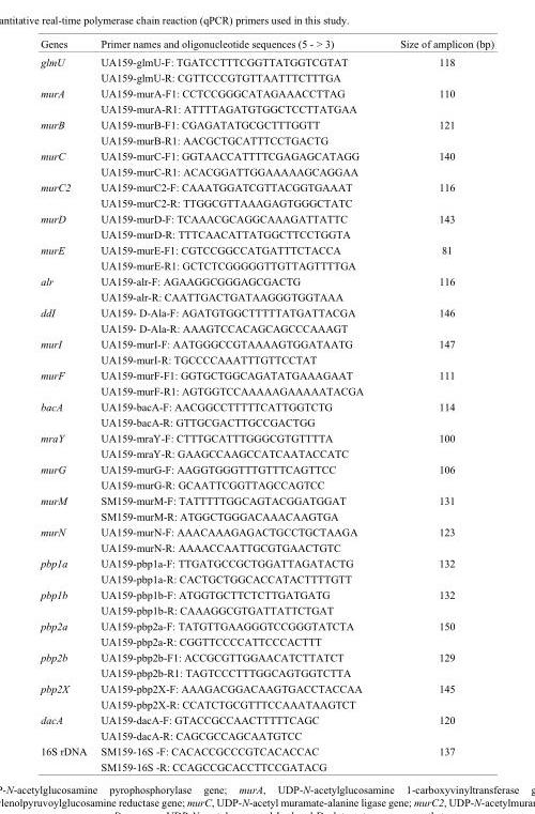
<table><thead><tr><td>Genes</td><td>Primer names and oligonucleotide sequences (5 - &gt; 3)</td><td>Size of amplicon (bp)</td></tr></thead><tbody><tr><td>glmU</td><td>UA159-glmU-F: TGATCCTTTCGGTTATGGTCGTAT UA159-glmU-R: CGTTCCCGTGTTAATTTCTTTGA</td><td>118</td></tr><tr><td>murA</td><td>UA159-murA-F1: CCTCCGGGCATAGAAACCTTAG UA159-murA-R1: ATTTTAGATGTGGCTCCTTATGAA</td><td>110</td></tr><tr><td>murB</td><td>UA159-murB-F1: CGAGATATGCGCTTTGGTT UA159-murB-R1: AACGCTGCATTTCCTGACTG</td><td>121</td></tr><tr><td>murC</td><td>UA159-murC-F1: GGTAACCATTTTCGAGAGCATAGG UA159-murC-R1: ACACGGATTGGAAAAAGCAGGAA</td><td>140</td></tr><tr><td>murC2</td><td>UA159-murC2-F: CAAATGGATCGTTACGGTGAAAT UA159-murC2-R: TTGGCGTTAAAGAGTGGGCTATC</td><td>116</td></tr><tr><td>murD</td><td>UA159-murD-F: TCAAACGCAGGCAAAGATTATTC UA159-murD-R: TTTCAACATTATGGCTTCCTGGTA</td><td>143</td></tr><tr><td>murE</td><td>UA159-murE-F1: CGTCCGGCCATGATTTCTACCA UA159-murE-R1: GCTCTCGGGGGTTGTTAGTTTTGA</td><td>81</td></tr><tr><td>alr</td><td>UA159-alr-F: AGAAGGCGGGAGCGACTG UA159-alr-R: CAATTGACTGATAAGGGTGGTAAA</td><td>116</td></tr><tr><td>ddI</td><td>UA159- D-Ala-F: AGATGTGGCTTTTTATGATTACGA UA159- D-Ala-R: AAAGTCCACAGCAGCCCAAAGT</td><td>146</td></tr><tr><td>murI</td><td>UA159-murI-F: AATGGGCCGTAAAAGTGGATAATG UA159-murI-R: TGCCCCAAATTTGTTCCTAT</td><td>147</td></tr><tr><td>murF</td><td>UA159-murF-F1: GGTGCTGGCAGATATGAAAGAAT UA159-murF-R1: AGTGGTCCAAAAAGAAAAATACGA</td><td>111</td></tr><tr><td>bacA</td><td>UA159-bacA-F: AACGGCCTTTTTCATTGGTCTG UA159-bacA-R: GTTGCGACTTGCCGACTGG</td><td>114</td></tr><tr><td>mraY</td><td>UA159-mraY-F: CTTTGCATTTGGGCGTGTTTTA UA159-mraY-R: GAAGCCAAGCCATCAATACCATC</td><td>100</td></tr><tr><td>murG</td><td>UA159-murG-F: AAGGTGGGTTTGTTTCAGTTCC UA159-murG-R: GCAATTCGGTTAGCCAGTCC</td><td>106</td></tr><tr><td>murM</td><td>SM159-murM-F: TATTTTTGGCAGTACGGATGGAT SM159-murM-R: ATGGCTGGGACAAACAAGTGA</td><td>131</td></tr><tr><td>murN</td><td>UA159-murN-F: AAACAAAGAGACTGCCTGCTAAGA UA159-murN-R: AAAACCAATTGCGTGAACTGTC</td><td>123</td></tr><tr><td>pbp1a</td><td>UA159-pbp1a-F: TTGATGCCGCTGGATTAGATACTG UA159-pbp1a-R: CACTGCTGGCACCATACTTTTGTT</td><td>132</td></tr><tr><td>pbp1b</td><td>UA159-pbp1b-F: ATGGTGCTTCTCTTGATGATG UA159-pbp1b-R: CAAAGGCGTGATTATTCTGAT</td><td>132</td></tr><tr><td>pbp2a</td><td>UA159-pbp2a-F: TATGTTGAAGGGTCCGGGTATCTA UA159-pbp2a-R: CGGTTCCCCATTCCCACTTT</td><td>150</td></tr><tr><td>pbp2b</td><td>UA159-pbp2b-F1: ACCGCGTTGGAACATCTTATCT UA159-pbp2b-R1: TAGTCCCTTTGGCAGTGGTCTTA</td><td>129</td></tr><tr><td>pbp2X</td><td>UA159-pbp2X-F: AAAGACGGACAAGTGACCTACCAA UA159-pbp2X-R: CCATCTGCGTTTCCAAATAAGTCT</td><td>145</td></tr><tr><td>dacA</td><td>UA159-dacA-F: GTACCGCCAACTTTTTCAGC UA159-dacA-R: CAGCGCCAGCAATGTCC</td><td>120</td></tr><tr><td>16S rDNA</td><td>SM159-16S -F: CACACCGCCCGTCACACCAC SM159-16S -R: CCAGCCGCACCTTCCGATACG</td><td>137</td></tr></tbody></table>